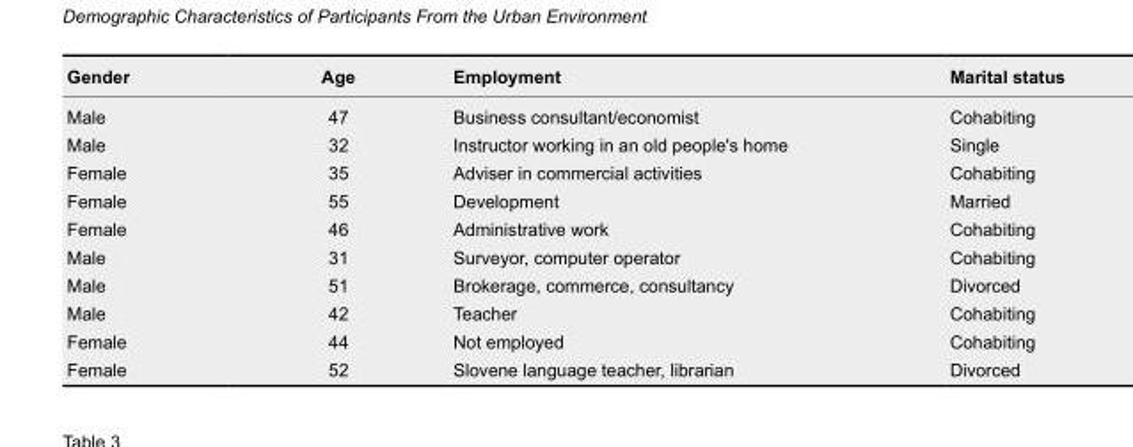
<table><thead><tr><td>Gender</td><td>Age</td><td>Employment</td><td>Marital status</td></tr></thead><tbody><tr><td>Male</td><td>47</td><td>Business consultant/economist</td><td>Cohabiting</td></tr><tr><td>Male</td><td>32</td><td>Instructor working in an old people&#x27;s home</td><td>Single</td></tr><tr><td>Female</td><td>35</td><td>Adviser in commercial activities</td><td>Cohabiting</td></tr><tr><td>Female</td><td>55</td><td>Development</td><td>Married</td></tr><tr><td>Female</td><td>46</td><td>Administrative work</td><td>Cohabiting</td></tr><tr><td>Male</td><td>31</td><td>Surveyor, computer operator</td><td>Cohabiting</td></tr><tr><td>Male</td><td>51</td><td>Brokerage, commerce, consultancy</td><td>Divorced</td></tr><tr><td>Male</td><td>42</td><td>Teacher</td><td>Cohabiting</td></tr><tr><td>Female</td><td>44</td><td>Not employed</td><td>Cohabiting</td></tr><tr><td>Female</td><td>52</td><td>Slovene language teacher, librarian</td><td>Divorced</td></tr></tbody></table>